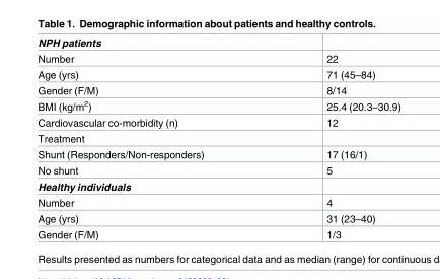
<table><tbody><tr><td colspan="2">NPH patients</td></tr><tr><td>Number</td><td>22</td></tr><tr><td>Age (yrs)</td><td>71 (45–84)</td></tr><tr><td>Gender (F/M)</td><td>8/14</td></tr><tr><td>BMI (kg/m<sup>2</sup>)</td><td>25.4 (20.3–30.9)</td></tr><tr><td>Cardiovascular co-morbidity (n)</td><td>12</td></tr><tr><td colspan="2">Treatment</td></tr><tr><td>Shunt (Responders/Non-responders)</td><td>17 (16/1)</td></tr><tr><td>No shunt</td><td>5</td></tr><tr><td colspan="2">Healthy individuals</td></tr><tr><td>Number</td><td>4</td></tr><tr><td>Age (yrs)</td><td>31 (23–40)</td></tr><tr><td>Gender (F/M)</td><td>1/3</td></tr></tbody></table>